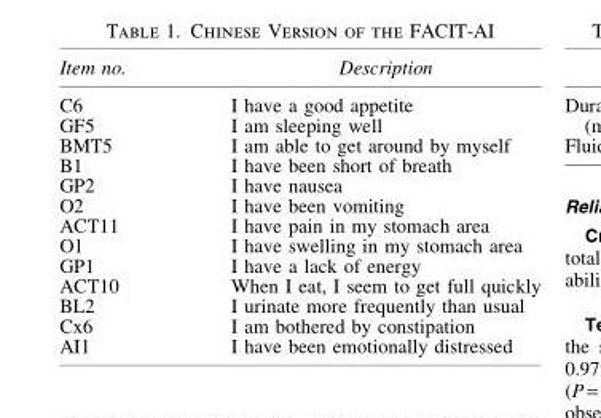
<table><thead><tr><td>Item no.</td><td>Description</td></tr></thead><tbody><tr><td>C6</td><td>I have a good appetite</td></tr><tr><td>GF5</td><td>I am sleeping well</td></tr><tr><td>BMT5</td><td>I am able to get around by myself</td></tr><tr><td>B1</td><td>I have been short of breath</td></tr><tr><td>GP2</td><td>I have nausea</td></tr><tr><td>O2</td><td>I have been vomiting</td></tr><tr><td>ACT11</td><td>I have pain in my stomach area</td></tr><tr><td>O1</td><td>I have swelling in my stomach area</td></tr><tr><td>GP1</td><td>I have a lack of energy</td></tr><tr><td>ACT10</td><td>When I eat, I seem to get full quickly</td></tr><tr><td>BL2</td><td>I urinate more frequently than usual</td></tr><tr><td>Cx6</td><td>I am bothered by constipation</td></tr><tr><td>AI1</td><td>I have been emotionally distressed</td></tr></tbody></table>